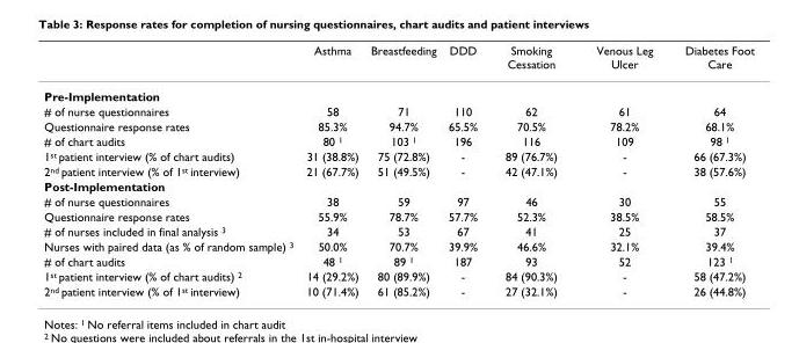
<table><thead><tr><td></td><td>Asthma</td><td>Breastfeeding</td><td>DDD</td><td>Smoking Cessation</td><td>Venous Leg Ulcer</td><td>Diabetes Foot Care</td></tr></thead><tbody><tr><td colspan="7">Pre-Implementation</td></tr><tr><td># of nurse questionnaires</td><td>58</td><td>71</td><td>110</td><td>62</td><td>61</td><td>64</td></tr><tr><td>Questionnaire response rates</td><td>85.3%</td><td>94.7%</td><td>65.5%</td><td>70.5%</td><td>78.2%</td><td>68.1%</td></tr><tr><td># of chart audits</td><td>80 <sup>1</sup></td><td>103 <sup>1</sup></td><td>196</td><td>116</td><td>109</td><td>98 <sup>1</sup></td></tr><tr><td>1<sup>st</sup> patient interview (% of chart audits)</td><td>31 (38.8%)</td><td>75 (72.8%)</td><td>-</td><td>89 (76.7%)</td><td>-</td><td>66 (67.3%)</td></tr><tr><td>2<sup>nd</sup> patient interview (% of 1<sup>st</sup> interview)</td><td>21 (67.7%)</td><td>51 (49.5%)</td><td>-</td><td>42 (47.1%)</td><td>-</td><td>38 (57.6%)</td></tr><tr><td colspan="7">Post-Implementation</td></tr><tr><td># of nurse questionnaires</td><td>38</td><td>59</td><td>97</td><td>46</td><td>30</td><td>55</td></tr><tr><td>Questionnaire response rates</td><td>55.9%</td><td>78.7%</td><td>57.7%</td><td>52.3%</td><td>38.5%</td><td>58.5%</td></tr><tr><td># of nurses included in final analysis <sup>3</sup></td><td>34</td><td>53</td><td>67</td><td>41</td><td>25</td><td>37</td></tr><tr><td>Nurses with paired data (as % of random sample) <sup>3</sup></td><td>50.0%</td><td>70.7%</td><td>39.9%</td><td>46.6%</td><td>32.1%</td><td>39.4%</td></tr><tr><td># of chart audits</td><td>48 <sup>1</sup></td><td>89 <sup>1</sup></td><td>187</td><td>93</td><td>52</td><td>123 <sup>1</sup></td></tr><tr><td>1<sup>st</sup> patient interview (% of chart audits) <sup>2</sup></td><td>14 (29.2%)</td><td>80 (89.9%)</td><td>-</td><td>84 (90.3%)</td><td>-</td><td>58 (47.2%)</td></tr><tr><td>2<sup>nd</sup> patient interview (% of 1<sup>st</sup> interview)</td><td>10 (71.4%)</td><td>61 (85.2%)</td><td>-</td><td>27 (32.1%)</td><td>-</td><td>26 (44.8%)</td></tr></tbody></table>